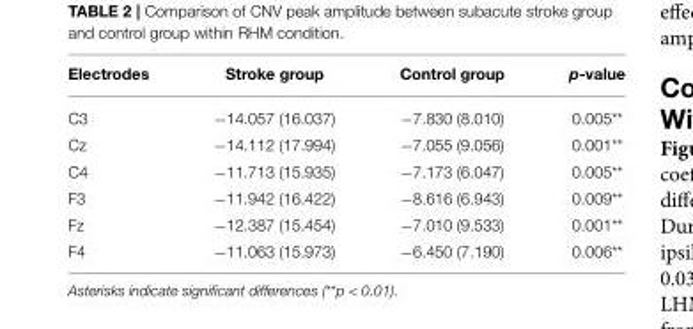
<table><thead><tr><td>Electrodes</td><td>Stroke group</td><td>Control group</td><td>p-value</td></tr></thead><tbody><tr><td>C3</td><td>−14.057 (16.037)</td><td>−7.830 (8.010)</td><td>0.005**</td></tr><tr><td>Cz</td><td>−14.112 (17.994)</td><td>−7.055 (9.056)</td><td>0.001**</td></tr><tr><td>C4</td><td>−11.713 (15.935)</td><td>−7.173 (6.047)</td><td>0.005**</td></tr><tr><td>F3</td><td>−11.942 (16.422)</td><td>−8.616 (6.943)</td><td>0.009**</td></tr><tr><td>Fz</td><td>−12.387 (15.454)</td><td>−7.010 (9.533)</td><td>0.001**</td></tr><tr><td>F4</td><td>−11.063 (15.973)</td><td>−6.450 (7.190)</td><td>0.006**</td></tr></tbody></table>